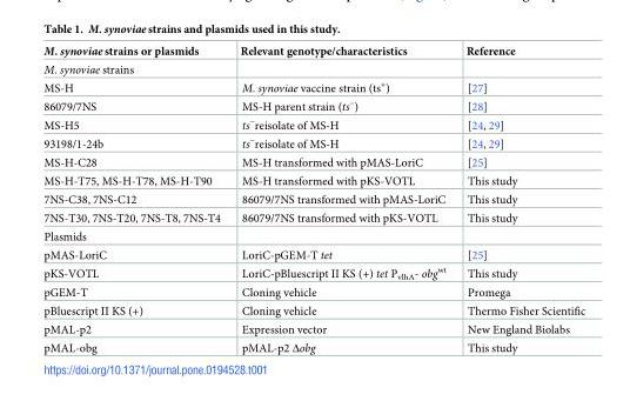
<table><thead><tr><td>M. synoviae strains or plasmids</td><td>Relevant genotype/characteristics</td><td>Reference</td></tr></thead><tbody><tr><td colspan="3">M. synoviae strains</td></tr><tr><td>MS-H</td><td>M. synoviae vaccine strain (ts<sup>+</sup>)</td><td>[27]</td></tr><tr><td>86079/7NS</td><td>MS-H parent strain (ts<sup>–</sup>)</td><td>[28]</td></tr><tr><td>MS-H5</td><td>ts<sup>−</sup>reisolate of MS-H</td><td>[24, 29]</td></tr><tr><td>93198/1-24b</td><td>ts<sup>−</sup>reisolate of MS-H</td><td>[24, 29]</td></tr><tr><td>MS-H-C28</td><td>MS-H transformed with pMAS-LoriC</td><td>[25]</td></tr><tr><td>MS-H-T75, MS-H-T78, MS-H-T90</td><td>MS-H transformed with pKS-VOTL</td><td>This study</td></tr><tr><td>7NS-C38, 7NS-C12</td><td>86079/7NS transformed with pMAS-LoriC</td><td>This study</td></tr><tr><td>7NS-T30, 7NS-T20, 7NS-T8, 7NS-T4</td><td>86079/7NS transformed with pKS-VOTL</td><td>This study</td></tr><tr><td colspan="3">Plasmids</td></tr><tr><td>pMAS-LoriC</td><td>LoriC-pGEM-T tet</td><td>[25]</td></tr><tr><td>pKS-VOTL</td><td>LoriC-pBluescript II KS (+) tet P<sub>vlhA</sub>- obg<sup>wt</sup></td><td>This study</td></tr><tr><td>pGEM-T</td><td>Cloning vehicle</td><td>Promega</td></tr><tr><td>pBluescript II KS (+)</td><td>Cloning vehicle</td><td>Thermo Fisher Scientific</td></tr><tr><td>pMAL-p2</td><td>Expression vector</td><td>New England Biolabs</td></tr><tr><td>pMAL-obg</td><td>pMAL-p2 Δobg</td><td>This study</td></tr></tbody></table>